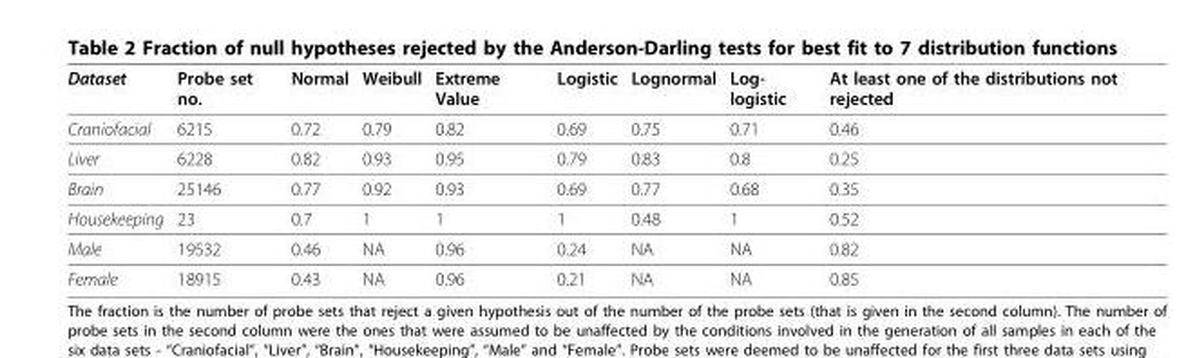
<table><thead><tr><td>Dataset</td><td>Probe set no.</td><td>Normal</td><td>Weibull</td><td>Extreme Value</td><td>Logistic</td><td>Lognormal</td><td>Log- logistic</td><td>At least one of the distributions not rejected</td></tr></thead><tbody><tr><td>Craniofacial</td><td>6215</td><td>0.72</td><td>0.79</td><td>0.82</td><td>0.69</td><td>0.75</td><td>0.71</td><td>0.46</td></tr><tr><td>Liver</td><td>6228</td><td>0.82</td><td>0.93</td><td>0.95</td><td>0.79</td><td>0.83</td><td>0.8</td><td>0.25</td></tr><tr><td>Brain</td><td>25146</td><td>0.77</td><td>0.92</td><td>0.93</td><td>0.69</td><td>0.77</td><td>0.68</td><td>0.35</td></tr><tr><td>Housekeeping</td><td>23</td><td>0.7</td><td>1</td><td>1</td><td>1</td><td>0.48</td><td>1</td><td>0.52</td></tr><tr><td>Male</td><td>19532</td><td>0.46</td><td>NA</td><td>0.96</td><td>0.24</td><td>NA</td><td>NA</td><td>0.82</td></tr><tr><td>Female</td><td>18915</td><td>0.43</td><td>NA</td><td>0.96</td><td>0.21</td><td>NA</td><td>NA</td><td>0.85</td></tr></tbody></table>